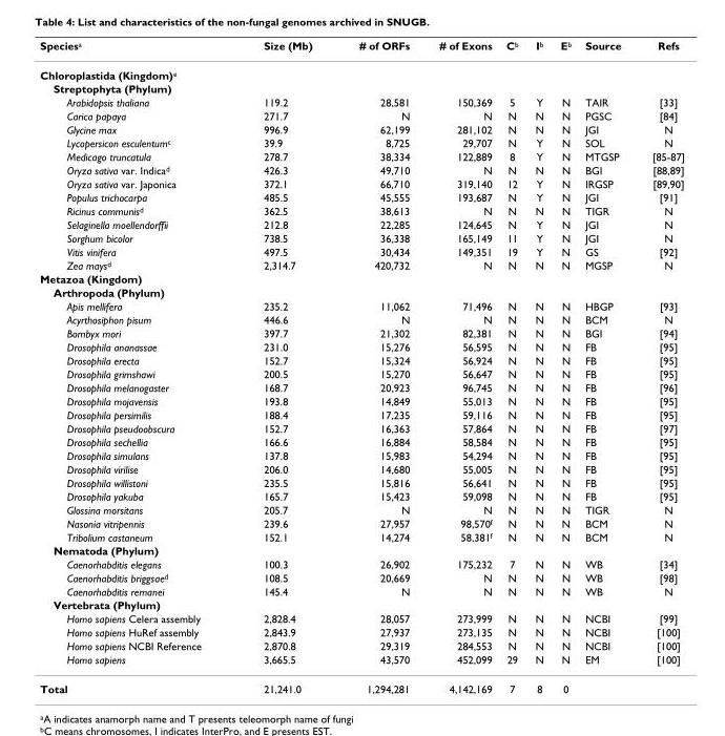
<table><thead><tr><td>Species<sup>a</sup></td><td>Size (Mb)</td><td># of ORFs</td><td># of Exons</td><td>C<sup>b</sup></td><td>I<sup>b</sup></td><td>E<sup>b</sup></td><td>Source</td><td>Refs</td></tr></thead><tbody><tr><td colspan="9">Chloroplastida (Kingdom)<sup>e</sup></td></tr><tr><td colspan="9">Streptophyta (Phylum)</td></tr><tr><td>Arabidopsis thaliana</td><td>119.2</td><td>28,581</td><td>150,369</td><td>5</td><td>Y</td><td>N</td><td>TAIR</td><td>[33]</td></tr><tr><td>Carica papaya</td><td>271.7</td><td>N</td><td>N</td><td>N</td><td>N</td><td>N</td><td>PGSC</td><td>[84]</td></tr><tr><td>Glycine max</td><td>996.9</td><td>62,199</td><td>281,102</td><td>N</td><td>N</td><td>N</td><td>JGI</td><td>N</td></tr><tr><td>Lycopersicon esculentum<sup>c</sup></td><td>39.9</td><td>8,725</td><td>29,707</td><td>N</td><td>Y</td><td>N</td><td>SOL</td><td>N</td></tr><tr><td>Medicago truncatula</td><td>278.7</td><td>38,334</td><td>122,889</td><td>8</td><td>Y</td><td>N</td><td>MTGSP</td><td>[85-87]</td></tr><tr><td>Oryza sativa var. Indica<sup>d</sup></td><td>426.3</td><td>49,710</td><td>N</td><td>N</td><td>N</td><td>N</td><td>BGI</td><td>[88,89]</td></tr><tr><td>Oryza sativa var. Japonica</td><td>372.1</td><td>66,710</td><td>319,140</td><td>12</td><td>Y</td><td>N</td><td>IRGSP</td><td>[89,90]</td></tr><tr><td>Populus trichocarpa</td><td>485.5</td><td>45,555</td><td>193,687</td><td>N</td><td>Y</td><td>N</td><td>JGI</td><td>[91]</td></tr><tr><td>Ricinus communis<sup>d</sup></td><td>362.5</td><td>38,613</td><td>N</td><td>N</td><td>N</td><td>N</td><td>TIGR</td><td>N</td></tr><tr><td>Selaginella moellendorffii</td><td>212.8</td><td>22,285</td><td>124,645</td><td>N</td><td>Y</td><td>N</td><td>JGI</td><td>N</td></tr><tr><td>Sorghum bicolor</td><td>738.5</td><td>36,338</td><td>165,149</td><td>11</td><td>Y</td><td>N</td><td>JGI</td><td>N</td></tr><tr><td>Vitis vinifera</td><td>497.5</td><td>30,434</td><td>149,351</td><td>19</td><td>Y</td><td>N</td><td>GS</td><td>[92]</td></tr><tr><td>Zea mays<sup>d</sup></td><td>2,314.7</td><td>420,732</td><td>N</td><td>N</td><td>N</td><td>N</td><td>MGSP</td><td>N</td></tr><tr><td colspan="9">Metazoa (Kingdom)</td></tr><tr><td colspan="9">Arthropoda (Phylum)</td></tr><tr><td>Apis mellifera</td><td>235.2</td><td>11,062</td><td>71,496</td><td>N</td><td>N</td><td>N</td><td>HBGP</td><td>[93]</td></tr><tr><td>Acyrthosiphon pisum</td><td>446.6</td><td>N</td><td>N</td><td>N</td><td>N</td><td>N</td><td>BCM</td><td>N</td></tr><tr><td>Bombyx mori</td><td>397.7</td><td>21,302</td><td>82,381</td><td>N</td><td>N</td><td>N</td><td>BGI</td><td>[94]</td></tr><tr><td>Drosophila ananassae</td><td>231.0</td><td>15,276</td><td>56,595</td><td>N</td><td>N</td><td>N</td><td>FB</td><td>[95]</td></tr><tr><td>Drosophila erecta</td><td>152.7</td><td>15,324</td><td>56,924</td><td>N</td><td>N</td><td>N</td><td>FB</td><td>[95]</td></tr><tr><td>Drosophila grimshawi</td><td>200.5</td><td>15,270</td><td>56,647</td><td>N</td><td>N</td><td>N</td><td>FB</td><td>[95]</td></tr><tr><td>Drosophila melanogaster</td><td>168.7</td><td>20,923</td><td>96,745</td><td>N</td><td>N</td><td>N</td><td>FB</td><td>[96]</td></tr><tr><td>Drosophila mojavensis</td><td>193.8</td><td>14,849</td><td>55,013</td><td>N</td><td>N</td><td>N</td><td>FB</td><td>[95]</td></tr><tr><td>Drosophila persimilis</td><td>188.4</td><td>17,235</td><td>59,116</td><td>N</td><td>N</td><td>N</td><td>FB</td><td>[95]</td></tr><tr><td>Drosophila pseudoobscura</td><td>152.7</td><td>16,363</td><td>57,864</td><td>N</td><td>N</td><td>N</td><td>FB</td><td>[97]</td></tr><tr><td>Drosophila sechellia</td><td>166.6</td><td>16,884</td><td>58,584</td><td>N</td><td>N</td><td>N</td><td>FB</td><td>[95]</td></tr><tr><td>Drosophila simulans</td><td>137.8</td><td>15,983</td><td>54,294</td><td>N</td><td>N</td><td>N</td><td>FB</td><td>[95]</td></tr><tr><td>Drosophila virilise</td><td>206.0</td><td>14,680</td><td>55,005</td><td>N</td><td>N</td><td>N</td><td>FB</td><td>[95]</td></tr><tr><td>Drosophila willistoni</td><td>235.5</td><td>15,816</td><td>56,641</td><td>N</td><td>N</td><td>N</td><td>FB</td><td>[95]</td></tr><tr><td>Drosophila yakuba</td><td>165.7</td><td>15,423</td><td>59,098</td><td>N</td><td>N</td><td>N</td><td>FB</td><td>[95]</td></tr><tr><td>Glossina morsitans</td><td>205.7</td><td>N</td><td>N</td><td>N</td><td>N</td><td>N</td><td>TIGR</td><td>N</td></tr><tr><td>Nasonia vitripennis</td><td>239.6</td><td>27,957</td><td>98,570<sup>f</sup></td><td>N</td><td>N</td><td>N</td><td>BCM</td><td>N</td></tr><tr><td>Tribolium castaneum</td><td>152.1</td><td>14,274</td><td>58,381<sup>f</sup></td><td>N</td><td>N</td><td>N</td><td>BCM</td><td>N</td></tr><tr><td colspan="9">Nematoda (Phylum)</td></tr><tr><td>Caenorhabditis elegans</td><td>100.3</td><td>26,902</td><td>175,232</td><td>7</td><td>N</td><td>N</td><td>WB</td><td>[34]</td></tr><tr><td>Caenorhabditis briggsae<sup>d</sup></td><td>108.5</td><td>20,669</td><td>N</td><td>N</td><td>N</td><td>N</td><td>WB</td><td>[98]</td></tr><tr><td>Caenorhabditis remanei</td><td>145.4</td><td>N</td><td>N</td><td>N</td><td>N</td><td>N</td><td>WB</td><td>N</td></tr><tr><td colspan="9">Vertebrata (Phylum)</td></tr><tr><td>Homo sapiens Celera assembly</td><td>2,828.4</td><td>28,057</td><td>273,999</td><td>N</td><td>N</td><td>N</td><td>NCBI</td><td>[99]</td></tr><tr><td>Homo sapiens HuRef assembly</td><td>2,843.9</td><td>27,937</td><td>273,135</td><td>N</td><td>N</td><td>N</td><td>NCBI</td><td>[100]</td></tr><tr><td>Homo sapiens NCBI Reference</td><td>2,870.8</td><td>29,319</td><td>284,553</td><td>N</td><td>N</td><td>N</td><td>NCBI</td><td>[100]</td></tr><tr><td>Homo sapiens</td><td>3,665.5</td><td>43,570</td><td>452,099</td><td>29</td><td>N</td><td>N</td><td>EM</td><td>[100]</td></tr><tr><td>Total</td><td>21,241.0</td><td>1,294,281</td><td>4,142,169</td><td>7</td><td>8</td><td>0</td><td></td><td></td></tr></tbody></table>